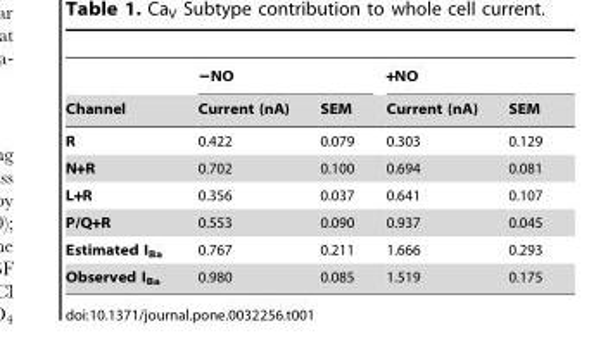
<table><thead><tr><td rowspan="2">Channel</td><td colspan="2">−NO</td><td colspan="2">+NO</td></tr><tr><td>Current (nA)</td><td>SEM</td><td>Current (nA)</td><td>SEM</td></tr></thead><tbody><tr><td>R</td><td>0.422</td><td>0.079</td><td>0.303</td><td>0.129</td></tr><tr><td>N+R</td><td>0.702</td><td>0.100</td><td>0.694</td><td>0.081</td></tr><tr><td>L+R</td><td>0.356</td><td>0.037</td><td>0.641</td><td>0.107</td></tr><tr><td>P/Q+R</td><td>0.553</td><td>0.090</td><td>0.937</td><td>0.045</td></tr><tr><td>Estimated I<sub>Ba</sub></td><td>0.767</td><td>0.211</td><td>1.666</td><td>0.293</td></tr><tr><td>Observed I<sub>Ba</sub></td><td>0.980</td><td>0.085</td><td>1.519</td><td>0.175</td></tr></tbody></table>